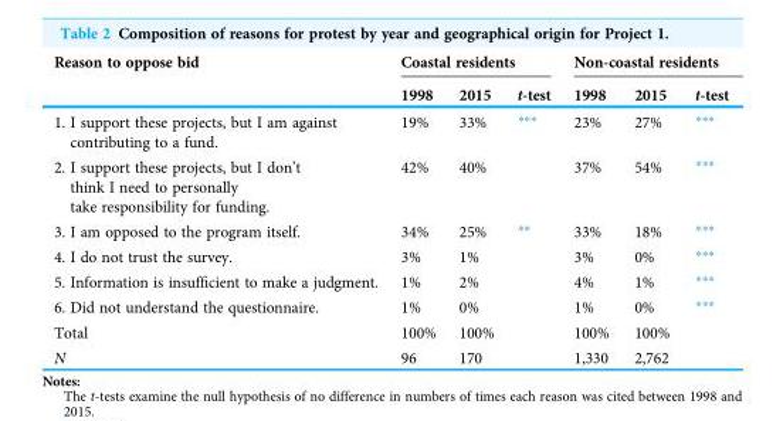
<table><thead><tr><td rowspan="2">Reason to oppose bid</td><td colspan="3">Coastal residents</td><td colspan="3">Non-coastal residents</td></tr><tr><td>1998</td><td>2015</td><td>t-test</td><td>1998</td><td>2015</td><td>t-test</td></tr></thead><tbody><tr><td>1. I support these projects, but I am against contributing to a fund.</td><td>19%</td><td>33%</td><td>***</td><td>23%</td><td>27%</td><td>***</td></tr><tr><td>2. I support these projects, but I don’t think I need to personally take responsibility for funding.</td><td>42%</td><td>40%</td><td></td><td>37%</td><td>54%</td><td>***</td></tr><tr><td>3. I am opposed to the program itself.</td><td>34%</td><td>25%</td><td>**</td><td>33%</td><td>18%</td><td>***</td></tr><tr><td>4. I do not trust the survey.</td><td>3%</td><td>1%</td><td></td><td>3%</td><td>0%</td><td>***</td></tr><tr><td>5. Information is insufficient to make a judgment.</td><td>1%</td><td>2%</td><td></td><td>4%</td><td>1%</td><td>***</td></tr><tr><td>6. Did not understand the questionnaire.</td><td>1%</td><td>0%</td><td></td><td>1%</td><td>0%</td><td>***</td></tr><tr><td>Total</td><td>100%</td><td>100%</td><td></td><td>100%</td><td>100%</td><td></td></tr><tr><td>N</td><td>96</td><td>170</td><td></td><td>1,330</td><td>2,762</td><td></td></tr></tbody></table>